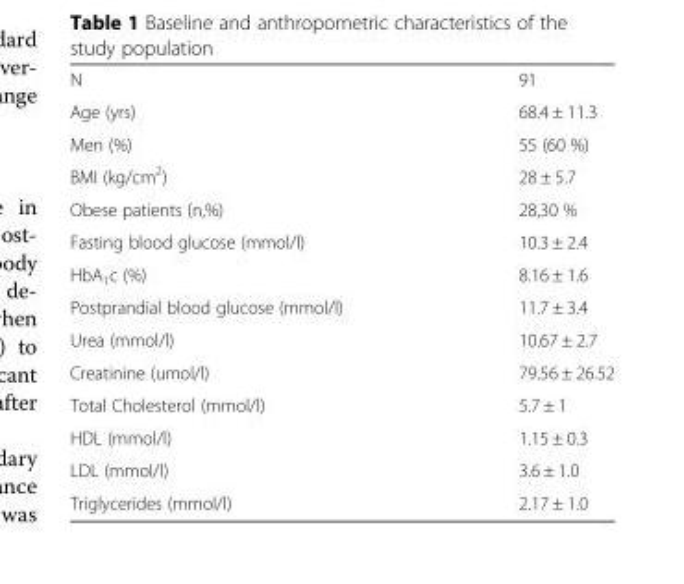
<table><tbody><tr><td>N</td><td>91</td></tr><tr><td>Age (yrs)</td><td>68.4 ± 11.3</td></tr><tr><td>Μen (%)</td><td>55 (60 %)</td></tr><tr><td>BMI (kg/cm<sup>2</sup>)</td><td>28 ± 5.7</td></tr><tr><td>Obese patients (n,%)</td><td>28,30 %</td></tr><tr><td>Fasting blood glucose (mmol/l)</td><td>10.3 ± 2.4</td></tr><tr><td>HbA<sub>1</sub>c (%)</td><td>8.16 ± 1.6</td></tr><tr><td>Postprandial blood glucose (mmol/l)</td><td>11.7 ± 3.4</td></tr><tr><td>Urea (mmol/l)</td><td>10.67 ± 2.7</td></tr><tr><td>Creatinine (umol/l)</td><td>79.56 ± 26.52</td></tr><tr><td>Total Cholesterol (mmol/l)</td><td>5.7 ± 1</td></tr><tr><td>HDL (mmol/l)</td><td>1.15 ± 0.3</td></tr><tr><td>LDL (mmol/l)</td><td>3.6 ± 1.0</td></tr><tr><td>Triglycerides (mmol/l)</td><td>2.17 ± 1.0</td></tr></tbody></table>